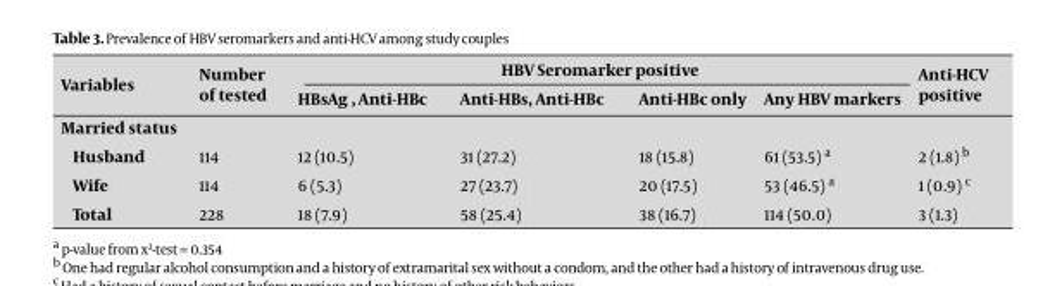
<table><thead><tr><td rowspan="2">Variables</td><td rowspan="2">Number of tested</td><td colspan="4">HBV Seromarker positive</td><td rowspan="2">Anti-HCV positive</td></tr><tr><td>HBsAg , Anti-HBc</td><td>Anti-HBs, Anti-HBc</td><td>Anti-HBc only</td><td>Any HBV markers</td></tr></thead><tbody><tr><td colspan="7">Married status</td></tr><tr><td>Husband</td><td>114</td><td>12 (10.5)</td><td>31 (27.2)</td><td>18 (15.8)</td><td>61 (53.5) a</td><td>2 (1.8) <sup>b</sup></td></tr><tr><td>Wife</td><td>114</td><td>6 (5.3)</td><td>27 (23.7)</td><td>20 (17.5)</td><td>53 (46.5) a</td><td>1 (0.9) c</td></tr><tr><td>Total</td><td>228</td><td>18 (7.9)</td><td>58 (25.4)</td><td>38 (16.7)</td><td>114 (50.0)</td><td>3 (1.3)</td></tr></tbody></table>